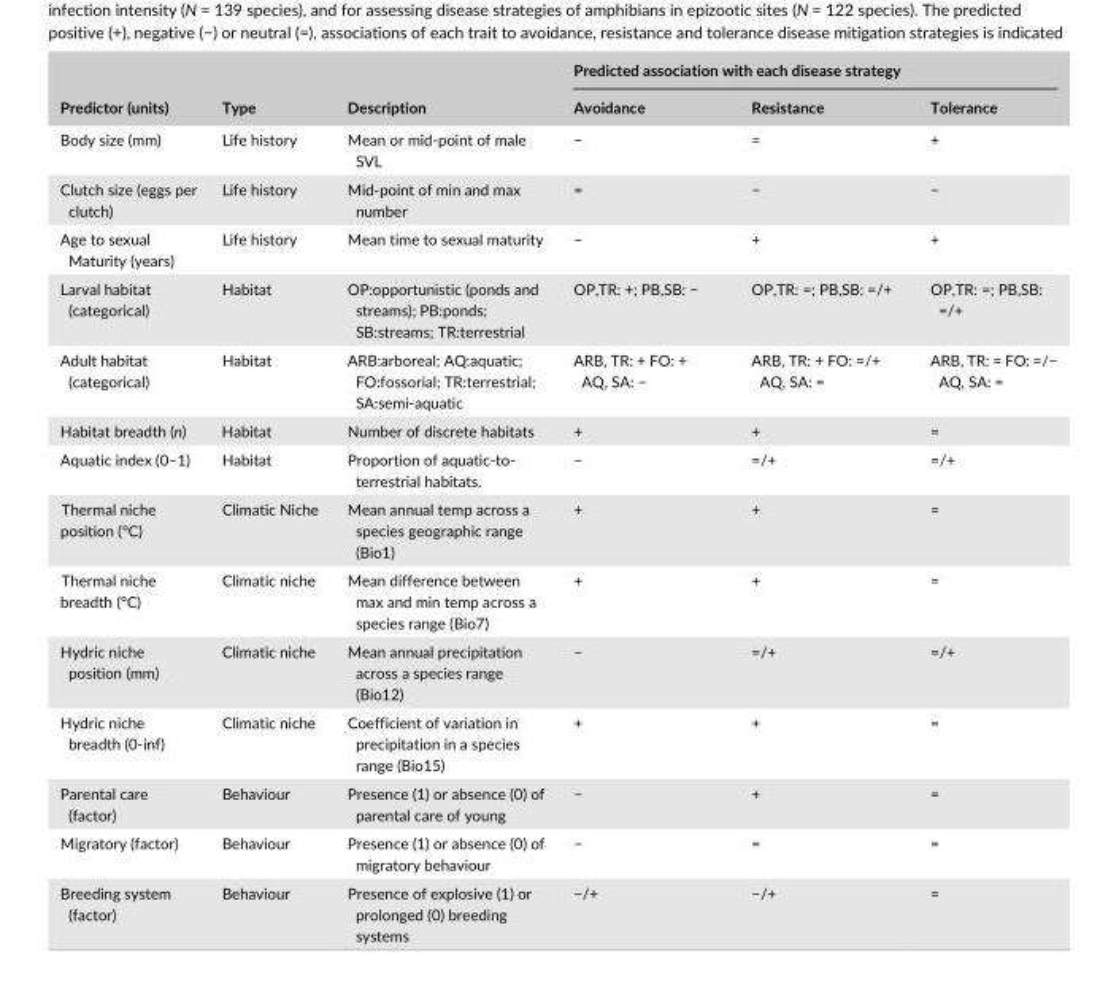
<table><thead><tr><td rowspan="2">Predictor (units)</td><td rowspan="2">Type</td><td rowspan="2">Description</td><td colspan="3">Predicted association with each disease strategy</td></tr><tr><td>Avoidance</td><td>Resistance</td><td>Tolerance</td></tr></thead><tbody><tr><td>Body size (mm)</td><td>Life history</td><td>Mean or mid- point of male SVL</td><td>−</td><td>=</td><td>+</td></tr><tr><td>Clutch size (eggs per clutch)</td><td>Life history</td><td>Mid- point of min and max number</td><td>=</td><td>−</td><td>−</td></tr><tr><td>Age to sexual Maturity (years)</td><td>Life history</td><td>Mean time to sexual maturity</td><td>−</td><td>+</td><td>+</td></tr><tr><td>Larval habitat (categorical)</td><td>Habitat</td><td>OP:opportunistic (ponds and streams); PB:ponds; SB:streams; TR:terrestrial</td><td>OP,TR: +; PB,SB: −</td><td>OP,TR: =; PB,SB: =/+</td><td>OP,TR: =; PB,SB: =/+</td></tr><tr><td>Adult habitat (categorical)</td><td>Habitat</td><td>ARB:arboreal; AQ:aquatic; FO:fossorial; TR:terrestrial; SA:semi- aquatic</td><td>ARB, TR: + FO: + AQ, SA: −</td><td>ARB, TR: + FO: =/+ AQ, SA: =</td><td>ARB, TR: = FO: =/− AQ, SA: =</td></tr><tr><td>Habitat breadth (n)</td><td>Habitat</td><td>Number of discrete habitats</td><td>+</td><td>+</td><td>=</td></tr><tr><td>Aquatic index (0–1)</td><td>Habitat</td><td>Proportion of aquatic- to- terrestrial habitats.</td><td>−</td><td>=/+</td><td>=/+</td></tr><tr><td>Thermal niche position (°C)</td><td>Climatic Niche</td><td>Mean annual temp across a species geographic range (Bio1)</td><td>+</td><td>+</td><td>=</td></tr><tr><td>Thermal niche breadth (°C)</td><td>Climatic niche</td><td>Mean difference between max and min temp across a species range (Bio7)</td><td>+</td><td>+</td><td>=</td></tr><tr><td>Hydric niche position (mm)</td><td>Climatic niche</td><td>Mean annual precipitation across a species range (Bio12)</td><td>−</td><td>=/+</td><td>=/+</td></tr><tr><td>Hydric niche breadth (0- inf)</td><td>Climatic niche</td><td>Coefficient of variation in precipitation in a species range (Bio15)</td><td>+</td><td>+</td><td>=</td></tr><tr><td>Parental care (factor)</td><td>Behaviour</td><td>Presence (1) or absence (0) of parental care of young</td><td>−</td><td>+</td><td>=</td></tr><tr><td>Migratory (factor)</td><td>Behaviour</td><td>Presence (1) or absence (0) of migratory behaviour</td><td>−</td><td>=</td><td>=</td></tr><tr><td>Breeding system (factor)</td><td>Behaviour</td><td>Presence of explosive (1) or prolonged (0) breeding systems</td><td>−/+</td><td>−/+</td><td>=</td></tr></tbody></table>